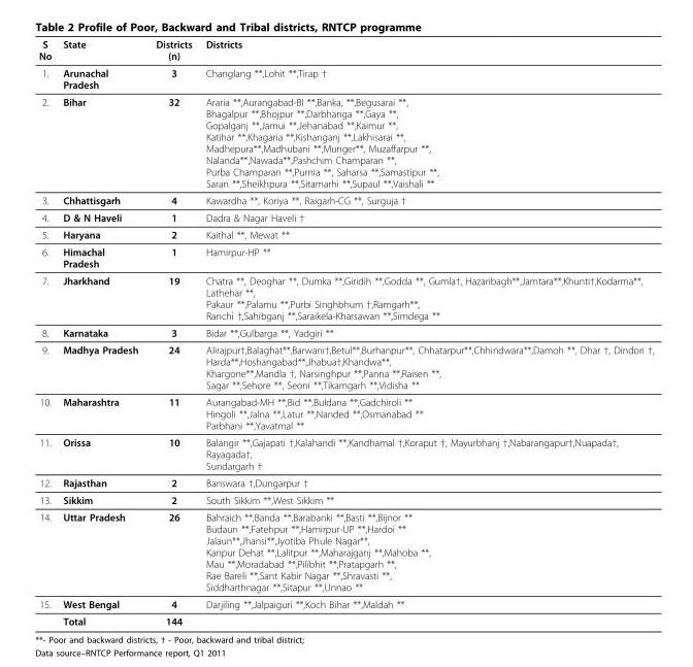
<table><thead><tr><td>S No</td><td>State</td><td>Districts (n)</td><td>Districts</td></tr></thead><tbody><tr><td>1.</td><td>Arunachal Pradesh</td><td>3</td><td>Changlang **,Lohit **,Tirap †</td></tr><tr><td>2.</td><td>Bihar</td><td>32</td><td>Araria **,Aurangabad-BI **,Banka, **,Begusarai **, Bhagalpur **,Bhojpur **,Darbhanga **,Gaya **, Gopalganj **,Jamui **,Jehanabad **,Kaimur **, Katihar **,Khagaria **,Kishanganj **,Lakhisarai **, Madhepura**,Madhubani **,Munger**, Muzaffarpur **, Nalanda**,Nawada**,Pashchim Champaran **, Purba Champaran **,Purnia **, Saharsa **,Samastipur **, Saran **,Sheikhpura **,Sitamarhi **,Supaul **,Vaishali **</td></tr><tr><td>3.</td><td>Chhattisgarh</td><td>4</td><td>Kawardha **, Koriya **, Raigarh-CG **, Surguja †</td></tr><tr><td>4.</td><td>D &amp; N Haveli</td><td>1</td><td>Dadra &amp; Nagar Haveli †</td></tr><tr><td>5.</td><td>Haryana</td><td>2</td><td>Kaithal **, Mewat **</td></tr><tr><td>6.</td><td>Himachal Pradesh</td><td>1</td><td>Hamirpur-HP **</td></tr><tr><td>7.</td><td>Jharkhand</td><td>19</td><td>Chatra **, Deoghar **, Dumka **,Giridih **,Godda **, Gumla†, Hazaribagh**,Jamtara**,Khunti†,Kodarma**, Lathehar **, Pakaur **,Palamu **,Purbi Singhbhum †,Ramgarh**, Ranchi †,Sahibganj **,Saraikela-Kharsawan **,Simdega **</td></tr><tr><td>8.</td><td>Karnataka</td><td>3</td><td>Bidar **,Gulbarga **, Yadgiri **</td></tr><tr><td>9.</td><td>Madhya Pradesh</td><td>24</td><td>Alirajpur†,Balaghat**,Barwani†,Betul**,Burhanpur**, Chhatarpur**,Chhindwara**,Damoh **, Dhar †, Dindori †, Harda**,Hoshangabad**,Jhabua†,Khandwa**, Khargone**,Mandla †, Narsinghpur **,Panna **,Raisen **, Sagar **,Sehore **, Seoni **,Tikamgarh **,Vidisha **</td></tr><tr><td>10.</td><td>Maharashtra</td><td>11</td><td>Aurangabad-MH **,Bid **,Buldana **,Gadchiroli ** Hingoli **,Jalna **,Latur **,Nanded **,Osmanabad ** Parbhani **,Yavatmal **</td></tr><tr><td>11.</td><td>Orissa</td><td>10</td><td>Balangir **,Gajapati †,Kalahandi **,Kandhamal †,Koraput †, Mayurbhanj †,Nabarangapur†,Nuapada†, Rayagada†, Sundargarh †</td></tr><tr><td>12.</td><td>Rajasthan</td><td>2</td><td>Banswara †,Dungarpur †</td></tr><tr><td>13.</td><td>Sikkim</td><td>2</td><td>South Sikkim **,West Sikkim **</td></tr><tr><td>14.</td><td>Uttar Pradesh</td><td>26</td><td>Bahraich **,Banda **,Barabanki **,Basti **,Bijnor ** Budaun **,Fatehpur **,Hamirpur-UP **,Hardoi ** Jalaun**,Jhansi**,Jyotiba Phule Nagar**, Kanpur Dehat **,Lalitpur **,Maharajganj **,Mahoba **, Mau **,Moradabad **,Pilibhit **,Pratapgarh **, Rae Bareli **,Sant Kabir Nagar **,Shravasti **, Siddharthnagar **,Sitapur **,Unnao **</td></tr><tr><td rowspan="2">15.</td><td>West Bengal</td><td>4</td><td>Darjiling **,Jalpaiguri **,Koch Bihar **,Maldah **</td></tr><tr><td>Total</td><td>144</td><td></td></tr></tbody></table>